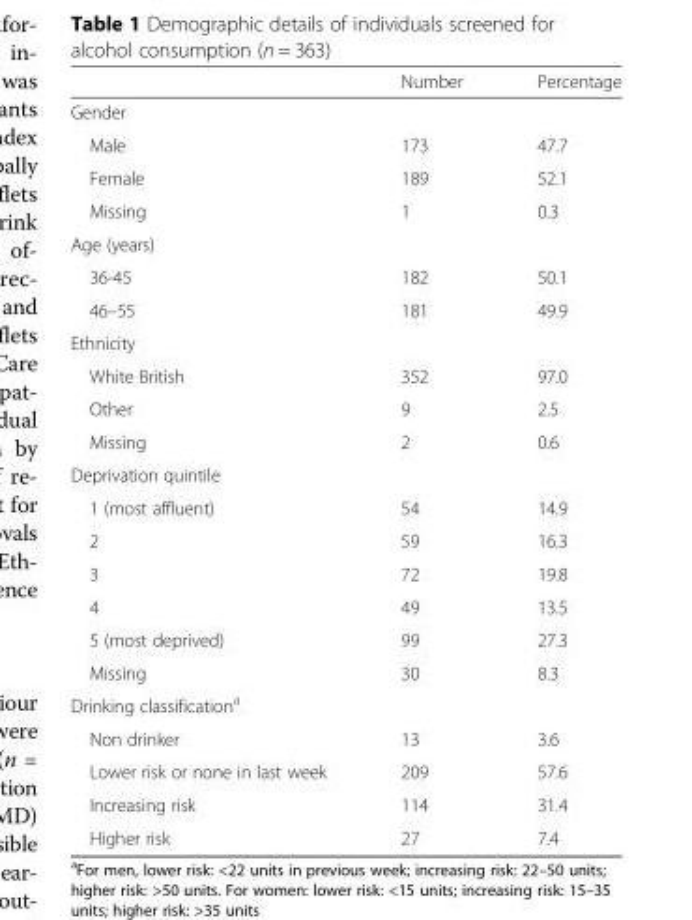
<table><thead><tr><td></td><td>Number</td><td>Percentage</td></tr></thead><tbody><tr><td colspan="3">Gender</td></tr><tr><td>Male</td><td>173</td><td>47.7</td></tr><tr><td>Female</td><td>189</td><td>52.1</td></tr><tr><td>Missing</td><td>1</td><td>0.3</td></tr><tr><td colspan="3">Age (years)</td></tr><tr><td>36-45</td><td>182</td><td>50.1</td></tr><tr><td>46–55</td><td>181</td><td>49.9</td></tr><tr><td colspan="3">Ethnicity</td></tr><tr><td>White British</td><td>352</td><td>97.0</td></tr><tr><td>Other</td><td>9</td><td>2.5</td></tr><tr><td>Missing</td><td>2</td><td>0.6</td></tr><tr><td colspan="3">Deprivation quintile</td></tr><tr><td>1 (most affluent)</td><td>54</td><td>14.9</td></tr><tr><td>2</td><td>59</td><td>16.3</td></tr><tr><td>3</td><td>72</td><td>19.8</td></tr><tr><td>4</td><td>49</td><td>13.5</td></tr><tr><td>5 (most deprived)</td><td>99</td><td>27.3</td></tr><tr><td>Missing</td><td>30</td><td>8.3</td></tr><tr><td colspan="3">Drinking classification<sup>a</sup></td></tr><tr><td>Non drinker</td><td>13</td><td>3.6</td></tr><tr><td>Lower risk or none in last week</td><td>209</td><td>57.6</td></tr><tr><td>Increasing risk</td><td>114</td><td>31.4</td></tr><tr><td>Higher risk</td><td>27</td><td>7.4</td></tr></tbody></table>